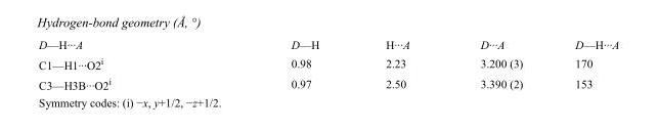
<table><tbody><tr><td>D—H···A</td><td>D—H</td><td>H···A</td><td>D···A</td><td>D—H···A</td></tr><tr><td>C1—H1···O2<sup>i</sup></td><td>0.98</td><td>2.23</td><td>3.200 (3)</td><td>170</td></tr><tr><td>C3—H3B···O2<sup>i</sup></td><td>0.97</td><td>2.50</td><td>3.390 (2)</td><td>153</td></tr></tbody></table>